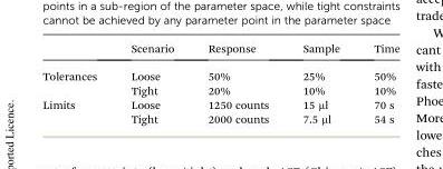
<table><thead><tr><td></td><td>Scenario</td><td>Response</td><td>Sample</td><td>Time</td></tr></thead><tbody><tr><td rowspan="2">Tolerances</td><td>Loose</td><td>50%</td><td>25%</td><td>50%</td></tr><tr><td>Tight</td><td>20%</td><td>10%</td><td>10%</td></tr><tr><td rowspan="2">Limits</td><td>Loose</td><td>1250 counts</td><td>15 μl</td><td>70 s</td></tr><tr><td>Tight</td><td>2000 counts</td><td>7.5 μl</td><td>54 s</td></tr></tbody></table>